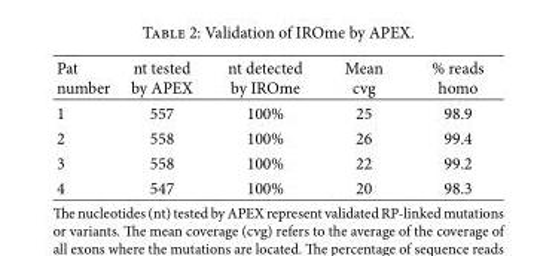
<table><thead><tr><td>Pat number</td><td>nt tested by APEX</td><td>nt detected by IROme</td><td>Mean cvg</td><td>% reads homo</td></tr></thead><tbody><tr><td>1</td><td>557</td><td>100%</td><td>25</td><td>98.9</td></tr><tr><td>2</td><td>558</td><td>100%</td><td>26</td><td>99.4</td></tr><tr><td>3</td><td>558</td><td>100%</td><td>22</td><td>99.2</td></tr><tr><td>4</td><td>547</td><td>100%</td><td>20</td><td>98.3</td></tr></tbody></table>